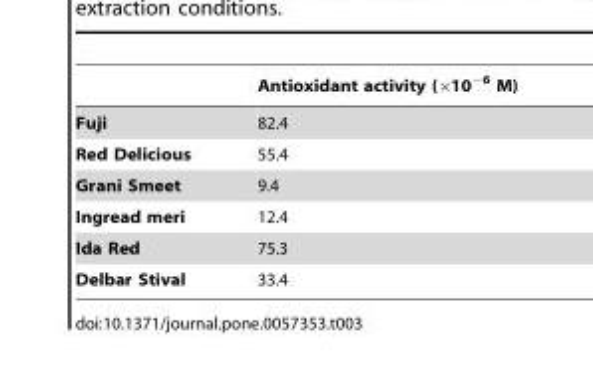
<table><thead><tr><td></td><td>Antioxidant activity (×10<sup>−6</sup> M)</td></tr></thead><tbody><tr><td>Fuji</td><td>82.4</td></tr><tr><td>Red Delicious</td><td>55.4</td></tr><tr><td>Grani Smeet</td><td>9.4</td></tr><tr><td>Ingread meri</td><td>12.4</td></tr><tr><td>Ida Red</td><td>75.3</td></tr><tr><td>Delbar Stival</td><td>33.4</td></tr></tbody></table>